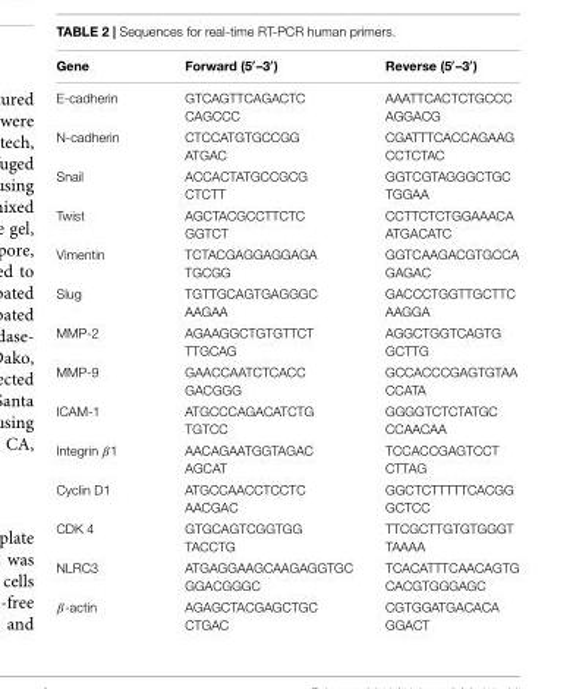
<table><thead><tr><td>Gene</td><td>Forward (5′–3′)</td><td>Reverse (5′–3′)</td></tr></thead><tbody><tr><td>E-cadherin</td><td>GTCAGTTCAGACTC CAGCCC</td><td>AAATTCACTCTGCCC AGGACG</td></tr><tr><td>N-cadherin</td><td>CTCCATGTGCCGG ATGAC</td><td>CGATTTCACCAGAAG CCTCTAC</td></tr><tr><td>Snail</td><td>ACCACTATGCCGCG CTCTT</td><td>GGTCGTAGGGCTGC TGGAA</td></tr><tr><td>Twist</td><td>AGCTACGCCTTCTC GGTCT</td><td>CCTTCTCTGGAAACA ATGACATC</td></tr><tr><td>Vimentin</td><td>TCTACGAGGAGGAGA TGCGG</td><td>GGTCAAGACGTGCCA GAGAC</td></tr><tr><td>Slug</td><td>TGTTGCAGTGAGGGC AAGAA</td><td>GACCCTGGTTGCTTC AAGGA</td></tr><tr><td>MMP-2</td><td>AGAAGGCTGTGTTCT TTGCAG</td><td>AGGCTGGTCAGTG GCTTG</td></tr><tr><td>MMP-9</td><td>GAACCAATCTCACC GACGGG</td><td>GCCACCCGAGTGTAA CCATA</td></tr><tr><td>ICAM-1</td><td>ATGCCCAGACATCTG TGTCC</td><td>GGGGTCTCTATGC CCAACAA</td></tr><tr><td>Integrin β1</td><td>AACAGAATGGTAGAC AGCAT</td><td>TCCACCGAGTCCT CTTAG</td></tr><tr><td>Cyclin D1</td><td>ATGCCAACCTCCTC AACGAC</td><td>GGCTCTTTTTCACGG GCTCC</td></tr><tr><td>CDK 4</td><td>GTGCAGTCGGTGG TACCTG</td><td>TTCGCTTGTGTGGGT TAAAA</td></tr><tr><td>NLRC3</td><td>ATGAGGAAGCAAGAGGTGC GGACGGGC</td><td>TCACATTTCAACAGTG CACGTGGGAGC</td></tr><tr><td>β-actin</td><td>AGAGCTACGAGCTGC CTGAC</td><td>CGTGGATGACACA GGACT</td></tr></tbody></table>